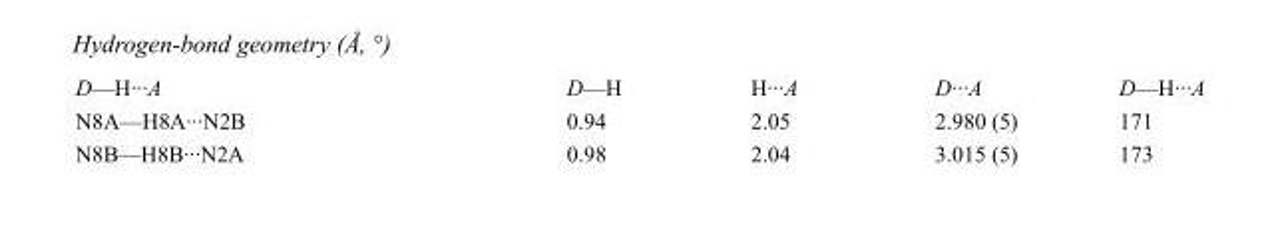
<table><tbody><tr><td>D—H···A</td><td>D—H</td><td>H···A</td><td>D···A</td><td>D—H···A</td></tr><tr><td>N8A—H8A···N2B</td><td>0.94</td><td>2.05</td><td>2.980 (5)</td><td>171</td></tr><tr><td>N8B—H8B···N2A</td><td>0.98</td><td>2.04</td><td>3.015 (5)</td><td>173</td></tr></tbody></table>